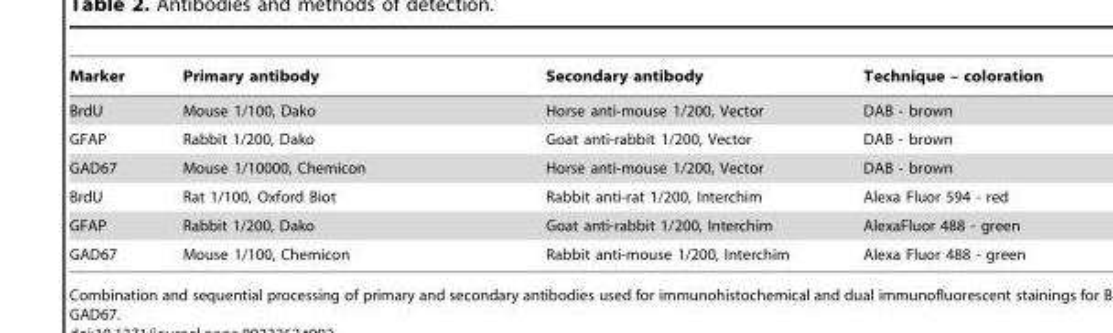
<table><thead><tr><td>Marker</td><td>Primary antibody</td><td>Secondary antibody</td><td>Technique – coloration</td></tr></thead><tbody><tr><td>BrdU</td><td>Mouse 1/100, Dako</td><td>Horse anti-mouse 1/200, Vector</td><td>DAB - brown</td></tr><tr><td>GFAP</td><td>Rabbit 1/200, Dako</td><td>Goat anti-rabbit 1/200, Vector</td><td>DAB - brown</td></tr><tr><td>GAD67</td><td>Mouse 1/10000, Chemicon</td><td>Horse anti-mouse 1/200, Vector</td><td>DAB - brown</td></tr><tr><td>BrdU</td><td>Rat 1/100, Oxford Biot</td><td>Rabbit anti-rat 1/200, Interchim</td><td>Alexa Fluor 594 - red</td></tr><tr><td>GFAP</td><td>Rabbit 1/200, Dako</td><td>Goat anti-rabbit 1/200, Interchim</td><td>AlexaFluor 488 - green</td></tr><tr><td>GAD67</td><td>Mouse 1/100, Chemicon</td><td>Rabbit anti-mouse 1/200, Interchim</td><td>Alexa Fluor 488 - green</td></tr></tbody></table>